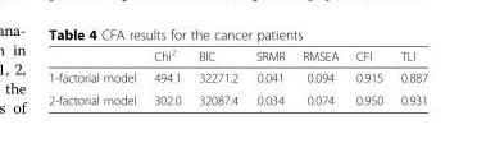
<table><thead><tr><td></td><td>Chi<sup>2</sup></td><td>BIC</td><td>SRMR</td><td>RMSEA</td><td>CFI</td><td>TLI</td></tr></thead><tbody><tr><td>1-factorial model</td><td>494.1</td><td>32271.2</td><td>0.041</td><td>0.094</td><td>0.915</td><td>0.887</td></tr><tr><td>2-factorial model</td><td>302.0</td><td>32087.4</td><td>0.034</td><td>0.074</td><td>0.950</td><td>0.931</td></tr></tbody></table>